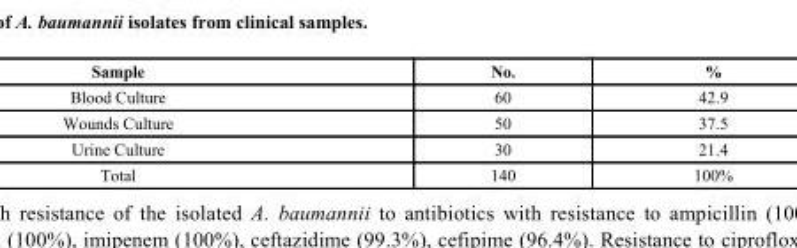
<table><thead><tr><td>Sample</td><td>No.</td><td>%</td></tr></thead><tbody><tr><td>Blood Culture</td><td>60</td><td>42.9</td></tr><tr><td>Wounds Culture</td><td>50</td><td>37.5</td></tr><tr><td>Urine Culture</td><td>30</td><td>21.4</td></tr><tr><td>Total</td><td>140</td><td>100%</td></tr></tbody></table>